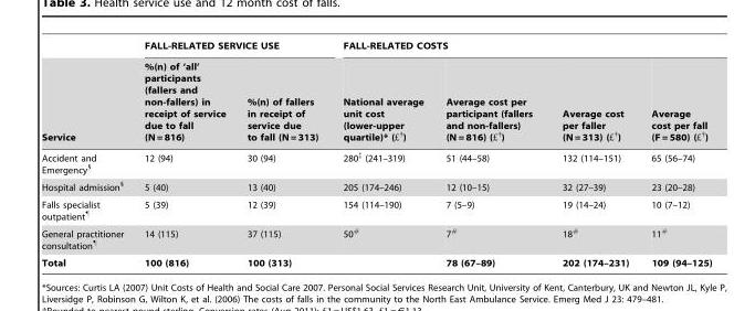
<table><thead><tr><td rowspan="2">Service</td><td colspan="2">FALL-RELATED SERVICE USE</td><td colspan="4">FALL-RELATED COSTS</td></tr><tr><td>%(n) of ‘all’ participants (fallers and non-fallers) in receipt of service due to fall (N = 816)</td><td>%(n) of fallers in receipt of service due to fall (N = 313)</td><td>National average unit cost (lower-upper quartile)* (£†)</td><td>Average cost per participant (fallers and non-fallers) (N = 816) (£†)</td><td>Average cost per faller (N = 313) (£†)</td><td>Average cost per fall (F = 580) (£†)</td></tr></thead><tbody><tr><td>Accident and Emergency§</td><td>12 (94)</td><td>30 (94)</td><td>280‡ (241–319)</td><td>51 (44–58)</td><td>132 (114–151)</td><td>65 (56–74)</td></tr><tr><td>Hospital admission§</td><td>5 (40)</td><td>13 (40)</td><td>205 (174–246)</td><td>12 (10–15)</td><td>32 (27–39)</td><td>23 (20–28)</td></tr><tr><td>Falls specialist outpatient¶</td><td>5 (39)</td><td>12 (39)</td><td>154 (114–190)</td><td>7 (5–9)</td><td>19 (14–24)</td><td>10 (7–12)</td></tr><tr><td>General practitioner consultation¶</td><td>14 (115)</td><td>37 (115)</td><td>50#</td><td>7#</td><td>18#</td><td>11#</td></tr><tr><td>Total</td><td>100 (816)</td><td>100 (313)</td><td></td><td>78 (67–89)</td><td>202 (174–231)</td><td>109 (94–125)</td></tr></tbody></table>